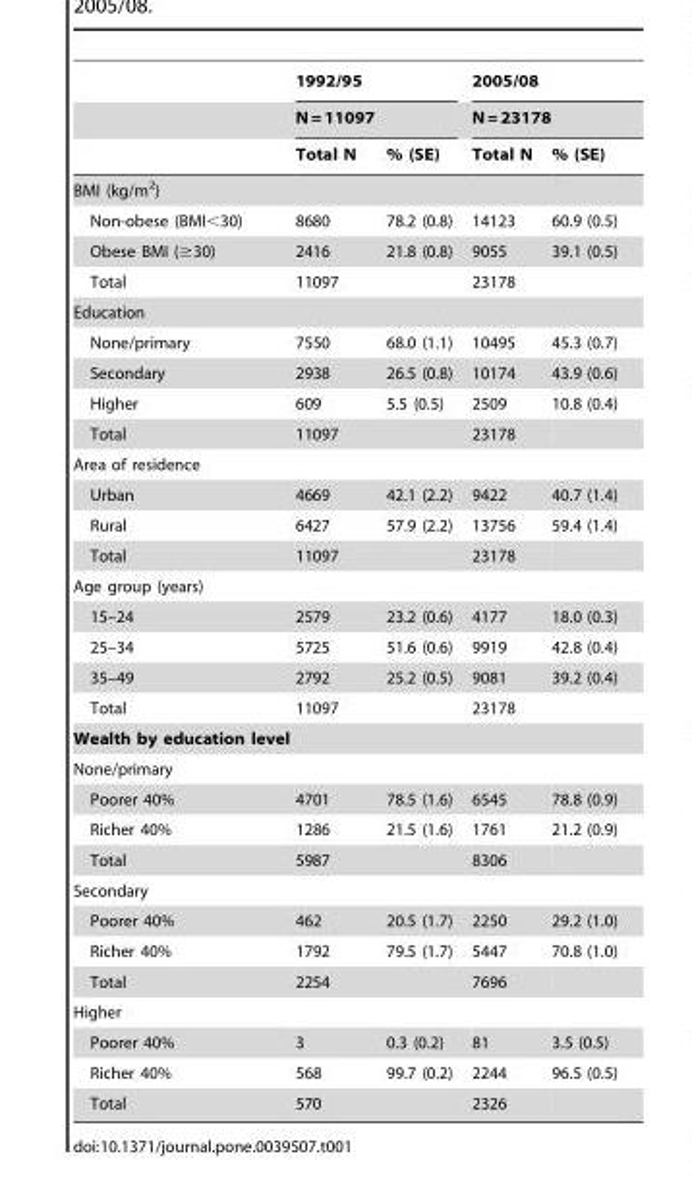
<table><thead><tr><td rowspan="3"></td><td rowspan="2" colspan="2">1992/95 N = 11097</td><td rowspan="2" colspan="2">2005/08 N = 23178</td></tr><tr></tr><tr><td>Total N</td><td>% (SE)</td><td>Total N</td><td>% (SE)</td></tr></thead><tbody><tr><td colspan="5">BMI (kg/m<sup>2</sup>)</td></tr><tr><td>Non-obese (BMI&lt;30)</td><td>8680</td><td>78.2 (0.8)</td><td>14123</td><td>60.9 (0.5)</td></tr><tr><td>Obese BMI (≥30)</td><td>2416</td><td>21.8 (0.8)</td><td>9055</td><td>39.1 (0.5)</td></tr><tr><td>Total</td><td>11097</td><td></td><td>23178</td><td></td></tr><tr><td colspan="5">Education</td></tr><tr><td>None/primary</td><td>7550</td><td>68.0 (1.1)</td><td>10495</td><td>45.3 (0.7)</td></tr><tr><td>Secondary</td><td>2938</td><td>26.5 (0.8)</td><td>10174</td><td>43.9 (0.6)</td></tr><tr><td>Higher</td><td>609</td><td>5.5 (0.5)</td><td>2509</td><td>10.8 (0.4)</td></tr><tr><td>Total</td><td>11097</td><td></td><td>23178</td><td></td></tr><tr><td colspan="5">Area of residence</td></tr><tr><td>Urban</td><td>4669</td><td>42.1 (2.2)</td><td>9422</td><td>40.7 (1.4)</td></tr><tr><td>Rural</td><td>6427</td><td>57.9 (2.2)</td><td>13756</td><td>59.4 (1.4)</td></tr><tr><td>Total</td><td>11097</td><td></td><td>23178</td><td></td></tr><tr><td colspan="5">Age group (years)</td></tr><tr><td>15–24</td><td>2579</td><td>23.2 (0.6)</td><td>4177</td><td>18.0 (0.3)</td></tr><tr><td>25–34</td><td>5725</td><td>51.6 (0.6)</td><td>9919</td><td>42.8 (0.4)</td></tr><tr><td>35–49</td><td>2792</td><td>25.2 (0.5)</td><td>9081</td><td>39.2 (0.4)</td></tr><tr><td>Total</td><td>11097</td><td></td><td>23178</td><td></td></tr><tr><td colspan="5">Wealth by education level</td></tr><tr><td colspan="5">None/primary</td></tr><tr><td>Poorer 40%</td><td>4701</td><td>78.5 (1.6)</td><td>6545</td><td>78.8 (0.9)</td></tr><tr><td>Richer 40%</td><td>1286</td><td>21.5 (1.6)</td><td>1761</td><td>21.2 (0.9)</td></tr><tr><td>Total</td><td>5987</td><td></td><td>8306</td><td></td></tr><tr><td colspan="5">Secondary</td></tr><tr><td>Poorer 40%</td><td>462</td><td>20.5 (1.7)</td><td>2250</td><td>29.2 (1.0)</td></tr><tr><td>Richer 40%</td><td>1792</td><td>79.5 (1.7)</td><td>5447</td><td>70.8 (1.0)</td></tr><tr><td>Total</td><td>2254</td><td></td><td>7696</td><td></td></tr><tr><td colspan="5">Higher</td></tr><tr><td>Poorer 40%</td><td>3</td><td>0.3 (0.2)</td><td>81</td><td>3.5 (0.5)</td></tr><tr><td>Richer 40%</td><td>568</td><td>99.7 (0.2)</td><td>2244</td><td>96.5 (0.5)</td></tr><tr><td>Total</td><td>570</td><td></td><td>2326</td><td></td></tr></tbody></table>